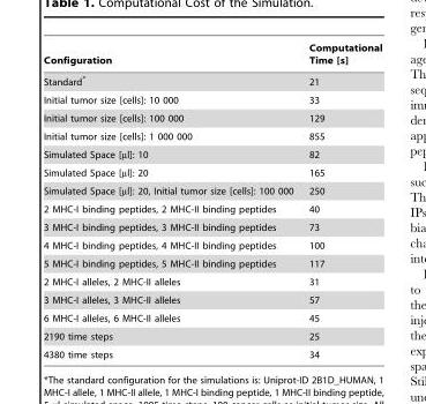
<table><thead><tr><td>Configuration</td><td>Computational Time [s]</td></tr></thead><tbody><tr><td>Standard*</td><td>21</td></tr><tr><td>Initial tumor size [cells]: 10 000</td><td>33</td></tr><tr><td>Initial tumor size [cells]: 100 000</td><td>129</td></tr><tr><td>Initial tumor size [cells]: 1 000 000</td><td>855</td></tr><tr><td>Simulated Space [µl]: 10</td><td>82</td></tr><tr><td>Simulated Space [µl]: 20</td><td>165</td></tr><tr><td>Simulated Space [µl]: 20, Initial tumor size [cells]: 100 000</td><td>250</td></tr><tr><td>2 MHC-I binding peptides, 2 MHC-II binding peptides</td><td>40</td></tr><tr><td>3 MHC-I binding peptides, 3 MHC-II binding peptides</td><td>73</td></tr><tr><td>4 MHC-I binding peptides, 4 MHC-II binding peptides</td><td>100</td></tr><tr><td>5 MHC-I binding peptides, 5 MHC-II binding peptides</td><td>117</td></tr><tr><td>2 MHC-I alleles, 2 MHC-II alleles</td><td>31</td></tr><tr><td>3 MHC-I alleles, 3 MHC-II alleles</td><td>57</td></tr><tr><td>6 MHC-I alleles, 6 MHC-II alleles</td><td>45</td></tr><tr><td>2190 time steps</td><td>25</td></tr><tr><td>4380 time steps</td><td>34</td></tr></tbody></table>